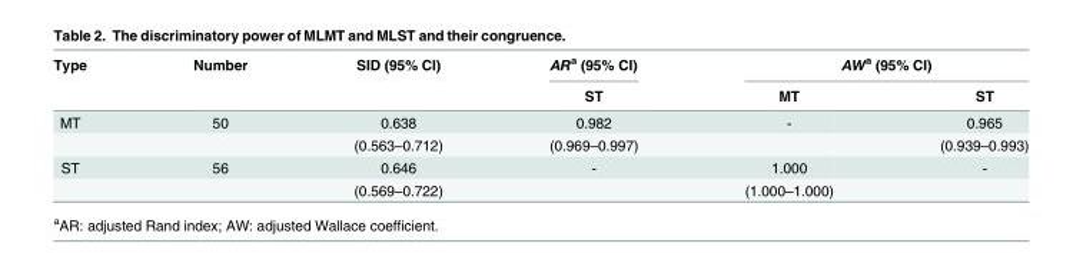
<table><thead><tr><td rowspan="2">Type</td><td rowspan="2">Number</td><td rowspan="2">SID (95% CI)</td><td rowspan="2">AR<sup>a</sup> (95% CI) ST</td><td colspan="2">AW<sup>a</sup> (95% CI)</td></tr><tr><td>MT</td><td>ST</td></tr></thead><tbody><tr><td rowspan="2">MT</td><td>50</td><td>0.638</td><td>0.982</td><td>-</td><td>0.965</td></tr><tr><td></td><td>(0.563–0.712)</td><td>(0.969–0.997)</td><td></td><td>(0.939–0.993)</td></tr><tr><td rowspan="2">ST</td><td>56</td><td>0.646</td><td>-</td><td>1.000</td><td>-</td></tr><tr><td></td><td>(0.569–0.722)</td><td></td><td>(1.000–1.000)</td><td></td></tr></tbody></table>